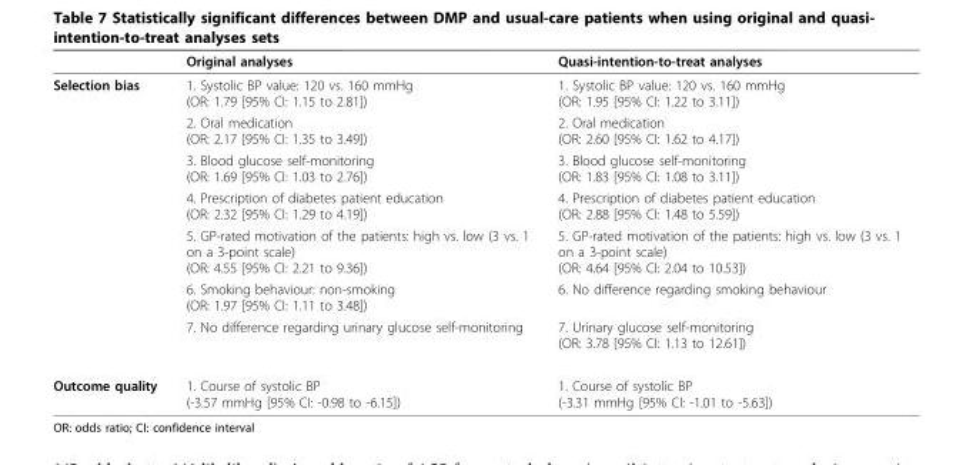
<table><thead><tr><td></td><td>Original analyses</td><td>Quasi-intention-to-treat analyses</td></tr></thead><tbody><tr><td rowspan="7">Selection bias</td><td>1. Systolic BP value: 120 vs. 160 mmHg (OR: 1.79 [95% CI: 1.15 to 2.81])</td><td>1. Systolic BP value: 120 vs. 160 mmHg (OR: 1.95 [95% CI: 1.22 to 3.11])</td></tr><tr><td>2. Oral medication (OR: 2.17 [95% CI: 1.35 to 3.49])</td><td>2. Oral medication (OR: 2.60 [95% CI: 1.62 to 4.17])</td></tr><tr><td>3. Blood glucose self-monitoring (OR: 1.69 [95% CI: 1.03 to 2.76])</td><td>3. Blood glucose self-monitoring (OR: 1.83 [95% CI: 1.08 to 3.11])</td></tr><tr><td>4. Prescription of diabetes patient education (OR: 2.32 [95% CI: 1.29 to 4.19])</td><td>4. Prescription of diabetes patient education (OR: 2.88 [95% CI: 1.48 to 5.59])</td></tr><tr><td>5. GP-rated motivation of the patients: high vs. low (3 vs. 1 on a 3-point scale) (OR: 4.55 [95% CI: 2.21 to 9.36])</td><td>5. GP-rated motivation of the patients: high vs. low (3 vs. 1 on a 3-point scale) (OR: 4.64 [95% CI: 2.04 to 10.53])</td></tr><tr><td>6. Smoking behaviour: non-smoking (OR: 1.97 [95% CI: 1.11 to 3.48])</td><td>6. No difference regarding smoking behaviour</td></tr><tr><td>7. No difference regarding urinary glucose self-monitoring</td><td>7. Urinary glucose self-monitoring (OR: 3.78 [95% CI: 1.13 to 12.61])</td></tr><tr><td>Outcome quality</td><td>1. Course of systolic BP (-3.57 mmHg [95% CI: -0.98 to -6.15])</td><td>1. Course of systolic BP (-3.31 mmHg [95% CI: -1.01 to -5.63])</td></tr></tbody></table>